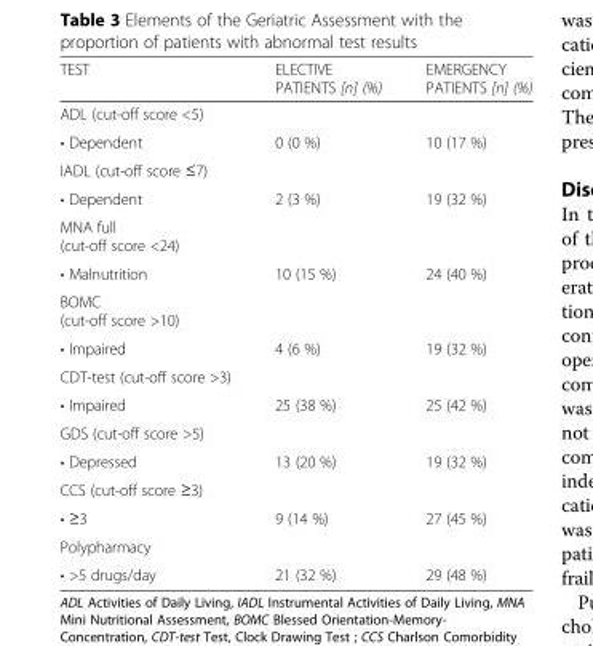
<table><thead><tr><td>TEST</td><td>ELECTIVE PATIENTS [n] (%)</td><td>EMERGENCY PATIENTS [n] (%)</td></tr></thead><tbody><tr><td colspan="3">ADL (cut-off score &lt;5)</td></tr><tr><td>• Dependent</td><td>0 (0 %)</td><td>10 (17 %)</td></tr><tr><td colspan="3">IADL (cut-off score ≤7)</td></tr><tr><td>• Dependent</td><td>2 (3 %)</td><td>19 (32 %)</td></tr><tr><td colspan="3">MNA full (cut-off score &lt;24)</td></tr><tr><td>• Malnutrition</td><td>10 (15 %)</td><td>24 (40 %)</td></tr><tr><td colspan="3">BOMC (cut-off score &gt;10)</td></tr><tr><td>• Impaired</td><td>4 (6 %)</td><td>19 (32 %)</td></tr><tr><td colspan="3">CDT-test (cut-off score &gt;3)</td></tr><tr><td>• Impaired</td><td>25 (38 %)</td><td>25 (42 %)</td></tr><tr><td colspan="3">GDS (cut-off score &gt;5)</td></tr><tr><td>• Depressed</td><td>13 (20 %)</td><td>19 (32 %)</td></tr><tr><td colspan="3">CCS (cut-off score ≥3)</td></tr><tr><td>• ≥3</td><td>9 (14 %)</td><td>27 (45 %)</td></tr><tr><td colspan="3">Polypharmacy</td></tr><tr><td>• &gt;5 drugs/day</td><td>21 (32 %)</td><td>29 (48 %)</td></tr></tbody></table>